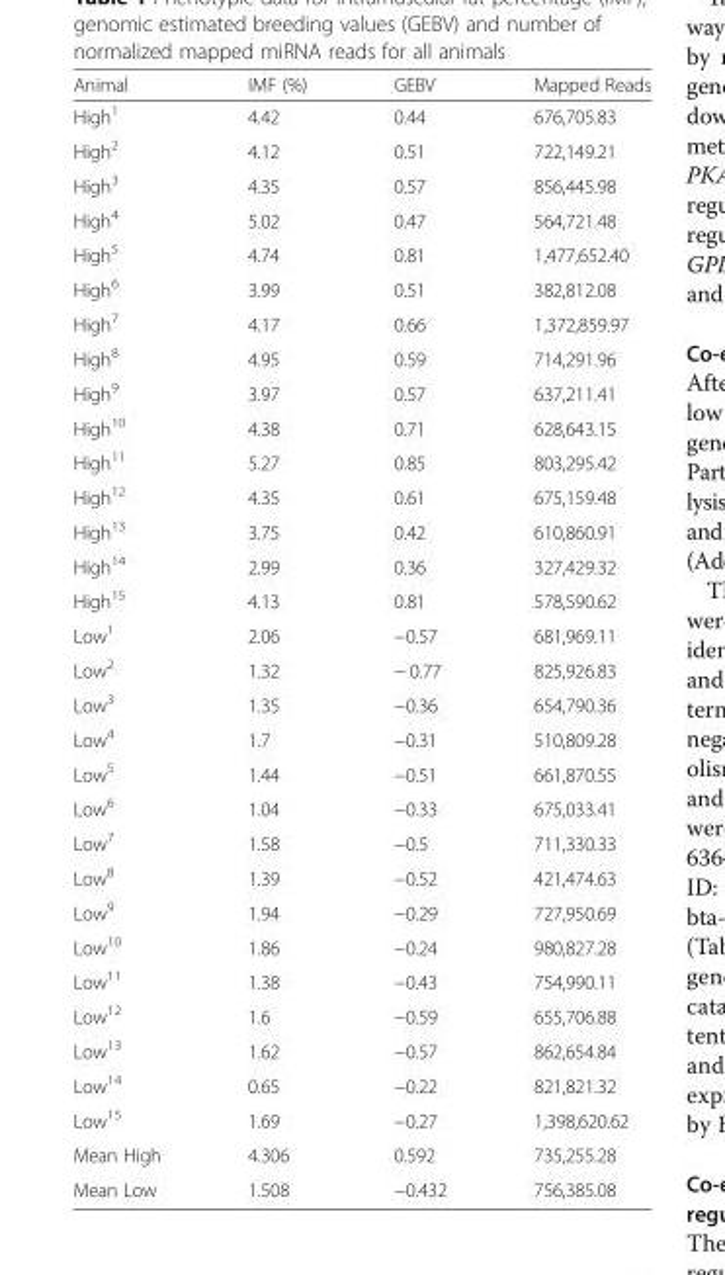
<table><thead><tr><td>Animal</td><td>IMF (%)</td><td>GEBV</td><td>Mapped Reads</td></tr></thead><tbody><tr><td>High<sup>1</sup></td><td>4.42</td><td>0.44</td><td>676,705.83</td></tr><tr><td>High<sup>2</sup></td><td>4.12</td><td>0.51</td><td>722,149.21</td></tr><tr><td>High<sup>3</sup></td><td>4.35</td><td>0.57</td><td>856,445.98</td></tr><tr><td>High<sup>4</sup></td><td>5.02</td><td>0.47</td><td>564,721.48</td></tr><tr><td>High<sup>5</sup></td><td>4.74</td><td>0.81</td><td>1,477,652.40</td></tr><tr><td>High<sup>6</sup></td><td>3.99</td><td>0.51</td><td>382,812.08</td></tr><tr><td>High<sup>7</sup></td><td>4.17</td><td>0.66</td><td>1,372,859.97</td></tr><tr><td>High<sup>8</sup></td><td>4.95</td><td>0.59</td><td>714,291.96</td></tr><tr><td>High<sup>9</sup></td><td>3.97</td><td>0.57</td><td>637,211.41</td></tr><tr><td>High<sup>10</sup></td><td>4.38</td><td>0.71</td><td>628,643.15</td></tr><tr><td>High<sup>11</sup></td><td>5.27</td><td>0.85</td><td>803,295.42</td></tr><tr><td>High<sup>12</sup></td><td>4.35</td><td>0.61</td><td>675,159.48</td></tr><tr><td>High<sup>13</sup></td><td>3.75</td><td>0.42</td><td>610,860.91</td></tr><tr><td>High<sup>14</sup></td><td>2.99</td><td>0.36</td><td>327,429.32</td></tr><tr><td>High<sup>15</sup></td><td>4.13</td><td>0.81</td><td>578,590.62</td></tr><tr><td>Low<sup>1</sup></td><td>2.06</td><td>−0.57</td><td>681,969.11</td></tr><tr><td>Low<sup>2</sup></td><td>1.32</td><td>− 0.77</td><td>825,926.83</td></tr><tr><td>Low<sup>3</sup></td><td>1.35</td><td>−0.36</td><td>654,790.36</td></tr><tr><td>Low<sup>4</sup></td><td>1.7</td><td>−0.31</td><td>510,809.28</td></tr><tr><td>Low<sup>5</sup></td><td>1.44</td><td>−0.51</td><td>661,870.55</td></tr><tr><td>Low<sup>6</sup></td><td>1.04</td><td>−0.33</td><td>675,033.41</td></tr><tr><td>Low<sup>7</sup></td><td>1.58</td><td>−0.5</td><td>711,330.33</td></tr><tr><td>Low<sup>8</sup></td><td>1.39</td><td>−0.52</td><td>421,474.63</td></tr><tr><td>Low<sup>9</sup></td><td>1.94</td><td>−0.29</td><td>727,950.69</td></tr><tr><td>Low<sup>10</sup></td><td>1.86</td><td>−0.24</td><td>980,827.28</td></tr><tr><td>Low<sup>11</sup></td><td>1.38</td><td>−0.43</td><td>754,990.11</td></tr><tr><td>Low<sup>12</sup></td><td>1.6</td><td>−0.59</td><td>655,706.88</td></tr><tr><td>Low<sup>13</sup></td><td>1.62</td><td>−0.57</td><td>862,654.84</td></tr><tr><td>Low<sup>14</sup></td><td>0.65</td><td>−0.22</td><td>821,821.32</td></tr><tr><td>Low<sup>15</sup></td><td>1.69</td><td>−0.27</td><td>1,398,620.62</td></tr><tr><td>Mean High</td><td>4.306</td><td>0.592</td><td>735,255.28</td></tr><tr><td>Mean Low</td><td>1.508</td><td>−0.432</td><td>756,385.08</td></tr></tbody></table>